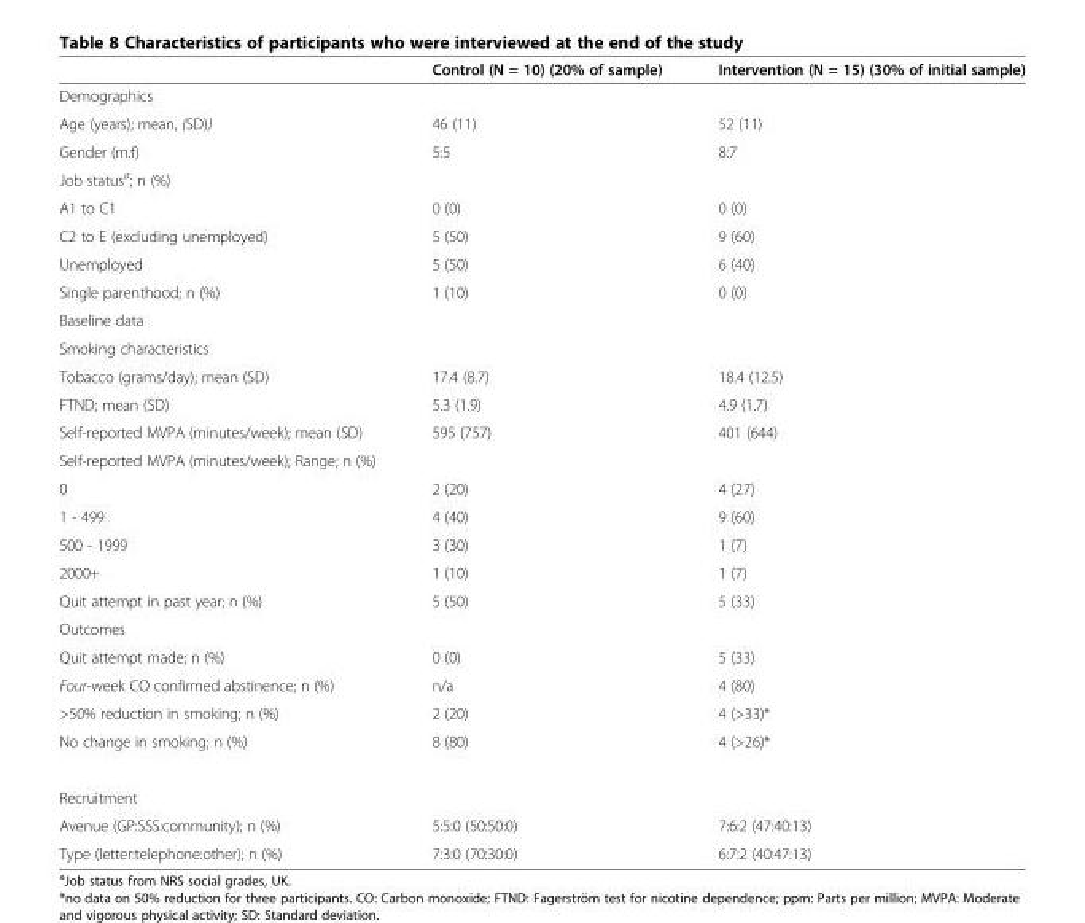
<table><thead><tr><td></td><td>Control (N = 10) (20% of sample)</td><td>Intervention (N = 15) (30% of initial sample)</td></tr></thead><tbody><tr><td colspan="3">Demographics</td></tr><tr><td>Age (years); mean, (SD))</td><td>46 (11)</td><td>52 (11)</td></tr><tr><td>Gender (m:f)</td><td>5:5</td><td>8:7</td></tr><tr><td colspan="3">Job status<sup>a</sup>; n (%)</td></tr><tr><td>A1 to C1</td><td>0 (0)</td><td>0 (0)</td></tr><tr><td>C2 to E (excluding unemployed)</td><td>5 (50)</td><td>9 (60)</td></tr><tr><td>Unemployed</td><td>5 (50)</td><td>6 (40)</td></tr><tr><td>Single parenthood; n (%)</td><td>1 (10)</td><td>0 (0)</td></tr><tr><td colspan="3">Baseline data</td></tr><tr><td colspan="3">Smoking characteristics</td></tr><tr><td>Tobacco (grams/day); mean (SD)</td><td>17.4 (8.7)</td><td>18.4 (12.5)</td></tr><tr><td>FTND; mean (SD)</td><td>5.3 (1.9)</td><td>4.9 (1.7)</td></tr><tr><td>Self-reported MVPA (minutes/week); mean (SD)</td><td>595 (757)</td><td>401 (644)</td></tr><tr><td colspan="3">Self-reported MVPA (minutes/week); Range; n (%)</td></tr><tr><td>0</td><td>2 (20)</td><td>4 (27)</td></tr><tr><td>1 - 499</td><td>4 (40)</td><td>9 (60)</td></tr><tr><td>500 - 1999</td><td>3 (30)</td><td>1 (7)</td></tr><tr><td>2000+</td><td>1 (10)</td><td>1 (7)</td></tr><tr><td>Quit attempt in past year; n (%)</td><td>5 (50)</td><td>5 (33)</td></tr><tr><td colspan="3">Outcomes</td></tr><tr><td>Quit attempt made; n (%)</td><td>0 (0)</td><td>5 (33)</td></tr><tr><td>Four-week CO confirmed abstinence; n (%)</td><td>n/a</td><td>4 (80)</td></tr><tr><td>&gt;50% reduction in smoking; n (%)</td><td>2 (20)</td><td>4 (&gt;33)*</td></tr><tr><td>No change in smoking; n (%)</td><td>8 (80)</td><td>4 (&gt;26)*</td></tr><tr><td colspan="3">Recruitment</td></tr><tr><td>Avenue (GP:SSS:community); n (%)</td><td>5:5:0 (50:50:0)</td><td>7:6:2 (47:40:13)</td></tr><tr><td>Type (letter:telephone:other); n (%)</td><td>7:3:0 (70:30:0)</td><td>6:7:2 (40:47:13)</td></tr></tbody></table>